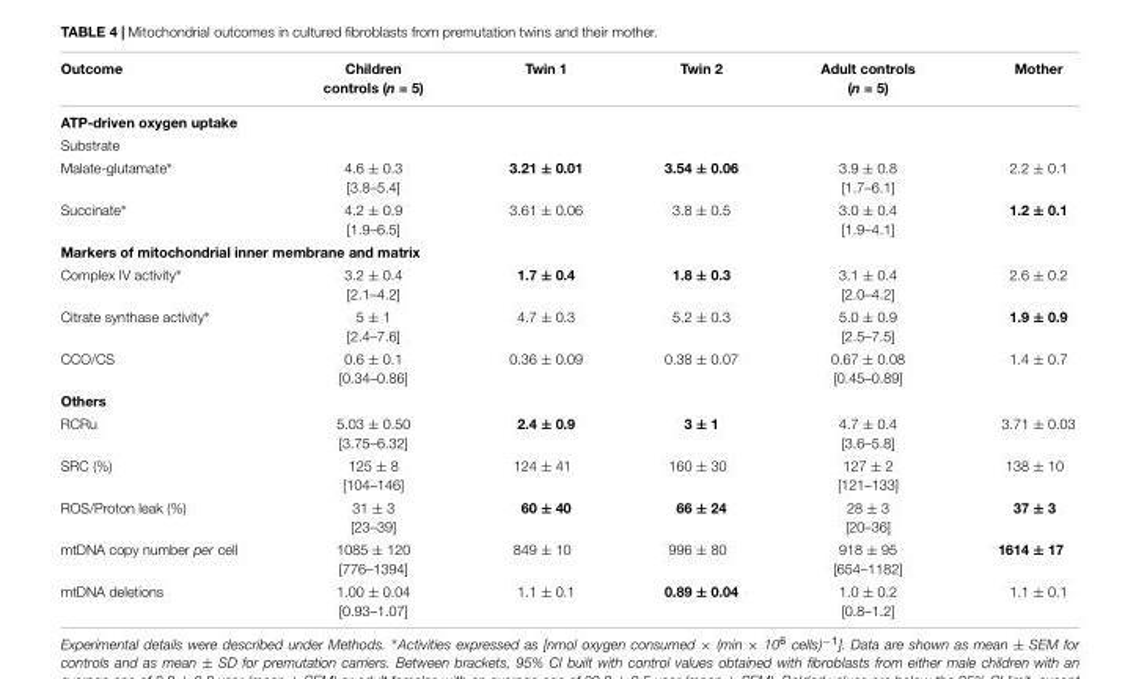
<table><thead><tr><td>Outcome</td><td>Children controls (n = 5)</td><td>Twin 1</td><td>Twin 2</td><td>Adult controls (n = 5)</td><td>Mother</td></tr></thead><tbody><tr><td colspan="6">ATP-driven oxygen uptake</td></tr><tr><td colspan="6">Substrate</td></tr><tr><td>Malate-glutamate∗</td><td>4.6 ± 0.3 [3.8–5.4]</td><td>3.21 ± 0.01</td><td>3.54 ± 0.06</td><td>3.9 ± 0.8 [1.7–6.1]</td><td>2.2 ± 0.1</td></tr><tr><td>Succinate∗</td><td>4.2 ± 0.9 [1.9–6.5]</td><td>3.61 ± 0.06</td><td>3.8 ± 0.5</td><td>3.0 ± 0.4 [1.9–4.1]</td><td>1.2 ± 0.1</td></tr><tr><td colspan="6">Markers of mitochondrial inner membrane and matrix</td></tr><tr><td>Complex IV activity∗</td><td>3.2 ± 0.4 [2.1–4.2]</td><td>1.7 ± 0.4</td><td>1.8 ± 0.3</td><td>3.1 ± 0.4 [2.0–4.2]</td><td>2.6 ± 0.2</td></tr><tr><td>Citrate synthase activity∗</td><td>5 ± 1 [2.4–7.6]</td><td>4.7 ± 0.3</td><td>5.2 ± 0.3</td><td>5.0 ± 0.9 [2.5–7.5]</td><td>1.9 ± 0.9</td></tr><tr><td>CCO/CS</td><td>0.6 ± 0.1 [0.34–0.86]</td><td>0.36 ± 0.09</td><td>0.38 ± 0.07</td><td>0.67 ± 0.08 [0.45–0.89]</td><td>1.4 ± 0.7</td></tr><tr><td colspan="6">Others</td></tr><tr><td>RCRu</td><td>5.03 ± 0.50 [3.75–6.32]</td><td>2.4 ± 0.9</td><td>3 ± 1</td><td>4.7 ± 0.4 [3.6–5.8]</td><td>3.71 ± 0.03</td></tr><tr><td>SRC (%)</td><td>125 ± 8 [104–146]</td><td>124 ± 41</td><td>160 ± 30</td><td>127 ± 2 [121–133]</td><td>138 ± 10</td></tr><tr><td>ROS/Proton leak (%)</td><td>31 ± 3 [23–39]</td><td>60 ± 40</td><td>66 ± 24</td><td>28 ± 3 [20–36]</td><td>37 ± 3</td></tr><tr><td>mtDNA copy number per cell</td><td>1085 ± 120 [776–1394]</td><td>849 ± 10</td><td>996 ± 80</td><td>918 ± 95 [654–1182]</td><td>1614 ± 17</td></tr><tr><td>mtDNA deletions</td><td>1.00 ± 0.04 [0.93–1.07]</td><td>1.1 ± 0.1</td><td>0.89 ± 0.04</td><td>1.0 ± 0.2 [0.8–1.2]</td><td>1.1 ± 0.1</td></tr></tbody></table>